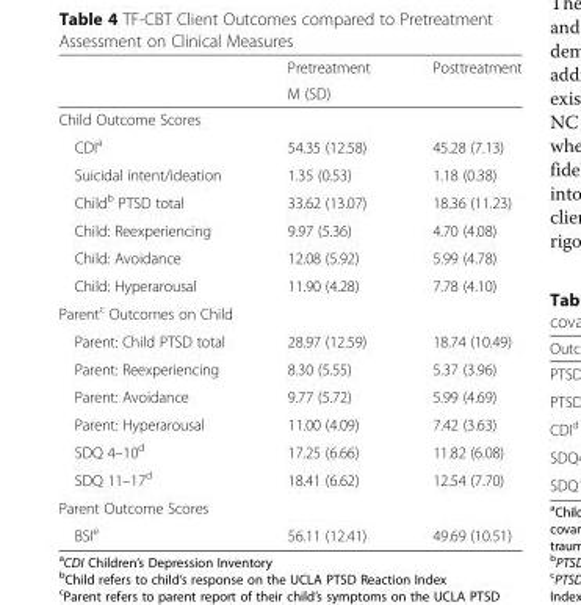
<table><thead><tr><td rowspan="2"></td><td rowspan="2">Pretreatment M (SD)</td><td rowspan="2">Posttreatment</td></tr><tr></tr></thead><tbody><tr><td colspan="3">Child Outcome Scores</td></tr><tr><td>CDI<sup>a</sup></td><td>54.35 (12.58)</td><td>45.28 (7.13)</td></tr><tr><td>Suicidal intent/ideation</td><td>1.35 (0.53)</td><td>1.18 (0.38)</td></tr><tr><td>Child<sup>b</sup> PTSD total</td><td>33.62 (13.07)</td><td>18.36 (11.23)</td></tr><tr><td>Child: Reexperiencing</td><td>9.97 (5.36)</td><td>4.70 (4.08)</td></tr><tr><td>Child: Avoidance</td><td>12.08 (5.92)</td><td>5.99 (4.78)</td></tr><tr><td>Child: Hyperarousal</td><td>11.90 (4.28)</td><td>7.78 (4.10)</td></tr><tr><td colspan="3">Parent<sup>c</sup> Outcomes on Child</td></tr><tr><td>Parent: Child PTSD total</td><td>28.97 (12.59)</td><td>18.74 (10.49)</td></tr><tr><td>Parent: Reexperiencing</td><td>8.30 (5.55)</td><td>5.37 (3.96)</td></tr><tr><td>Parent: Avoidance</td><td>9.77 (5.72)</td><td>5.99 (4.69)</td></tr><tr><td>Parent: Hyperarousal</td><td>11.00 (4.09)</td><td>7.42 (3.63)</td></tr><tr><td>SDQ 4–10<sup>d</sup></td><td>17.25 (6.66)</td><td>11.82 (6.08)</td></tr><tr><td>SDQ 11–17<sup>d</sup></td><td>18.41 (6.62)</td><td>12.54 (7.70)</td></tr><tr><td colspan="3">Parent Outcome Scores</td></tr><tr><td>BSI<sup>e</sup></td><td>56.11 (12.41)</td><td>49.69 (10.51)</td></tr></tbody></table>